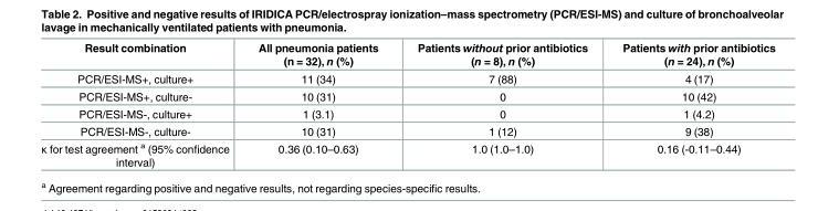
<table><thead><tr><td>Result combination</td><td>All pneumonia patients (n = 32), n (%)</td><td>Patients without prior antibiotics (n = 8), n (%)</td><td>Patients with prior antibiotics (n = 24), n (%)</td></tr></thead><tbody><tr><td>PCR/ESI-MS+, culture+</td><td>11 (34)</td><td>7 (88)</td><td>4 (17)</td></tr><tr><td>PCR/ESI-MS+, culture-</td><td>10 (31)</td><td>0</td><td>10 (42)</td></tr><tr><td>PCR/ESI-MS-, culture+</td><td>1 (3.1)</td><td>0</td><td>1 (4.2)</td></tr><tr><td>PCR/ESI-MS-, culture-</td><td>10 (31)</td><td>1 (12)</td><td>9 (38)</td></tr><tr><td>κ for test agreement <sup>a</sup> (95% confidence interval)</td><td>0.36 (0.10–0.63)</td><td>1.0 (1.0–1.0)</td><td>0.16 (-0.11–0.44)</td></tr></tbody></table>